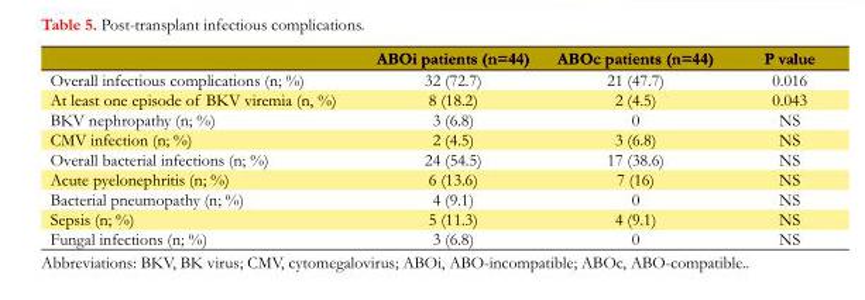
<table><thead><tr><td></td><td>ABOi patients (n=44)</td><td>ABOc patients (n=44)</td><td>P value</td></tr></thead><tbody><tr><td>Overall infectious complications (n; %)</td><td>32 (72.7)</td><td>21 (47.7)</td><td>0.016</td></tr><tr><td>At least one episode of BKV viremia (n, %)</td><td>8 (18.2)</td><td>2 (4.5)</td><td>0.043</td></tr><tr><td>BKV nephropathy (n; %)</td><td>3 (6.8)</td><td>0</td><td>NS</td></tr><tr><td>CMV infection (n; %)</td><td>2 (4.5)</td><td>3 (6.8)</td><td>NS</td></tr><tr><td>Overall bacterial infections (n; %)</td><td>24 (54.5)</td><td>17 (38.6)</td><td>NS</td></tr><tr><td>Acute pyelonephritis (n; %)</td><td>6 (13.6)</td><td>7 (16)</td><td>NS</td></tr><tr><td>Bacterial pneumopathy (n; %)</td><td>4 (9.1)</td><td>0</td><td>NS</td></tr><tr><td>Sepsis (n; %)</td><td>5 (11.3)</td><td>4 (9.1)</td><td>NS</td></tr><tr><td>Fungal infections (n; %)</td><td>3 (6.8)</td><td>0</td><td>NS</td></tr></tbody></table>